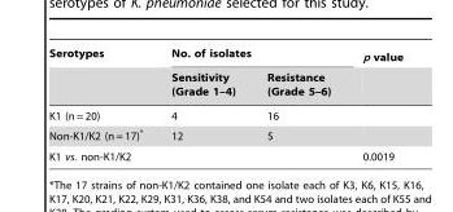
<table><thead><tr><td rowspan="2">Serotypes</td><td colspan="2">No. of isolates</td><td rowspan="2">p value</td></tr><tr><td>Sensitivity (Grade 1–4)</td><td>Resistance (Grade 5–6)</td></tr></thead><tbody><tr><td>K1 (n = 20)</td><td>4</td><td>16</td><td></td></tr><tr><td>Non-K1/K2 (n = 17)*</td><td>12</td><td>5</td><td></td></tr><tr><td>K1 vs. non-K1/K2</td><td></td><td></td><td>0.0019</td></tr></tbody></table>